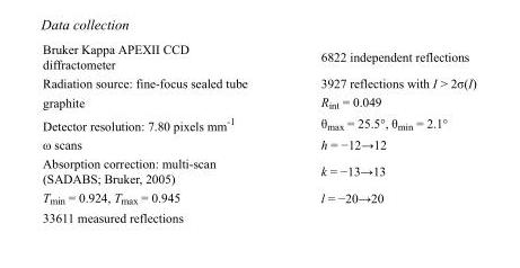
<table><tbody><tr><td>Bruker Kappa APEXII CCD diffractometer</td><td>6822 independent reflections</td></tr><tr><td>Radiation source: fine-focus sealed tube</td><td>3927 reflections with I &gt; 2σ(I)</td></tr><tr><td>graphite</td><td>R<sub>int</sub> = 0.049</td></tr><tr><td>Detector resolution: 7.80 pixels mm<sup>-1</sup></td><td>θ<sub>max</sub> = 25.5°, θ<sub>min</sub> = 2.1°</td></tr><tr><td>ω scans</td><td>h = −12→12</td></tr><tr><td>Absorption correction: multi-scan (SADABS; Bruker, 2005)</td><td>k = −13→13</td></tr><tr><td>T<sub>min</sub> = 0.924, T<sub>max</sub> = 0.945</td><td>l = −20→20</td></tr><tr><td>33611 measured reflections</td><td></td></tr></tbody></table>